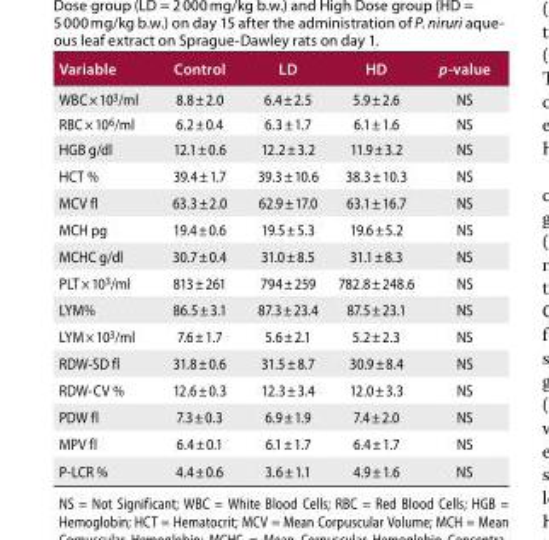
<table><thead><tr><td>Variable</td><td>Control</td><td>LD</td><td>HD</td><td>p-value</td></tr></thead><tbody><tr><td>WBC × 10<sup>3</sup>/ml</td><td>8.8 ± 2.0</td><td>6.4 ± 2.5</td><td>5.9 ± 2.6</td><td>NS</td></tr><tr><td>RBC × 10<sup>6</sup>/ml</td><td>6.2 ± 0.4</td><td>6.3 ± 1.7</td><td>6.1 ± 1.6</td><td>NS</td></tr><tr><td>HGB g/dl</td><td>12.1 ± 0.6</td><td>12.2 ± 3.2</td><td>11.9 ± 3.2</td><td>NS</td></tr><tr><td>HCT %</td><td>39.4 ± 1.7</td><td>39.3 ± 10.6</td><td>38.3 ± 10.3</td><td>NS</td></tr><tr><td>MCV fl</td><td>63.3 ± 2.0</td><td>62.9 ± 17.0</td><td>63.1 ± 16.7</td><td>NS</td></tr><tr><td>MCH pg</td><td>19.4 ± 0.6</td><td>19.5 ± 5.3</td><td>19.6 ± 5.2</td><td>NS</td></tr><tr><td>MCHC g/dl</td><td>30.7 ± 0.4</td><td>31.0 ± 8.5</td><td>31.1 ± 8.3</td><td>NS</td></tr><tr><td>PLT × 10<sup>3</sup>/ml</td><td>813 ± 261</td><td>794 ± 259</td><td>782.8 ± 248.6</td><td>NS</td></tr><tr><td>LYM%</td><td>86.5 ± 3.1</td><td>87.3 ± 23.4</td><td>87.5 ± 23.1</td><td>NS</td></tr><tr><td>LYM × 10<sup>3</sup>/ml</td><td>7.6 ± 1.7</td><td>5.6 ± 2.1</td><td>5.2 ± 2.3</td><td>NS</td></tr><tr><td>RDW-SD fl</td><td>31.8 ± 0.6</td><td>31.5 ± 8.7</td><td>30.9 ± 8.4</td><td>NS</td></tr><tr><td>RDW-CV %</td><td>12.6 ± 0.3</td><td>12.3 ± 3.4</td><td>12.0 ± 3.3</td><td>NS</td></tr><tr><td>PDW fl</td><td>7.3 ± 0.3</td><td>6.9 ± 1.9</td><td>7.4 ± 2.0</td><td>NS</td></tr><tr><td>MPV fl</td><td>6.4 ± 0.1</td><td>6.1 ± 1.7</td><td>6.4 ± 1.7</td><td>NS</td></tr><tr><td>P-LCR %</td><td>4.4 ± 0.6</td><td>3.6 ± 1.1</td><td>4.9 ± 1.6</td><td>NS</td></tr></tbody></table>